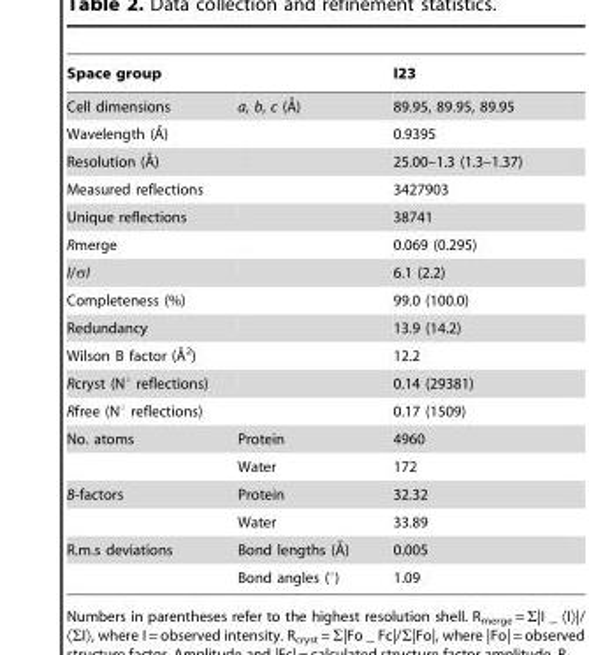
<table><thead><tr><td>Space group</td><td></td><td>I23</td></tr></thead><tbody><tr><td>Cell dimensions</td><td>a, b, c (A˚)</td><td>89.95, 89.95, 89.95</td></tr><tr><td>Wavelength (A˚)</td><td></td><td>0.9395</td></tr><tr><td>Resolution (A˚)</td><td></td><td>25.00–1.3 (1.3–1.37)</td></tr><tr><td>Measured reflections</td><td></td><td>3427903</td></tr><tr><td>Unique reflections</td><td></td><td>38741</td></tr><tr><td>Rmerge</td><td></td><td>0.069 (0.295)</td></tr><tr><td>I/σI</td><td></td><td>6.1 (2.2)</td></tr><tr><td>Completeness (%)</td><td></td><td>99.0 (100.0)</td></tr><tr><td>Redundancy</td><td></td><td>13.9 (14.2)</td></tr><tr><td>Wilson B factor (A˚2)</td><td></td><td>12.2</td></tr><tr><td>Rcryst (N° reflections)</td><td></td><td>0.14 (29381)</td></tr><tr><td>Rfree (N° reflections)</td><td></td><td>0.17 (1509)</td></tr><tr><td rowspan="2">No. atoms</td><td>Protein</td><td>4960</td></tr><tr><td>Water</td><td>172</td></tr><tr><td rowspan="2">B-factors</td><td>Protein</td><td>32.32</td></tr><tr><td>Water</td><td>33.89</td></tr><tr><td rowspan="2">R.m.s deviations</td><td>Bond lengths (A˚)</td><td>0.005</td></tr><tr><td>Bond angles (°)</td><td>1.09</td></tr></tbody></table>